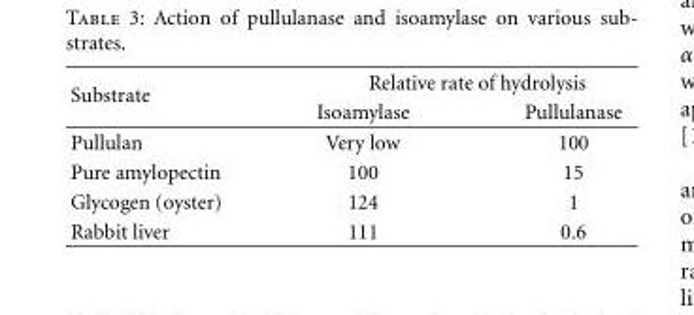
<table><thead><tr><td rowspan="2">Substrate</td><td colspan="2">Relative rate of hydrolysis</td></tr><tr><td>Isoamylase</td><td>Pullulanase</td></tr></thead><tbody><tr><td>Pullulan</td><td>Very low</td><td>100</td></tr><tr><td>Pure amylopectin</td><td>100</td><td>15</td></tr><tr><td>Glycogen (oyster)</td><td>124</td><td>1</td></tr><tr><td>Rabbit liver</td><td>111</td><td>0.6</td></tr></tbody></table>